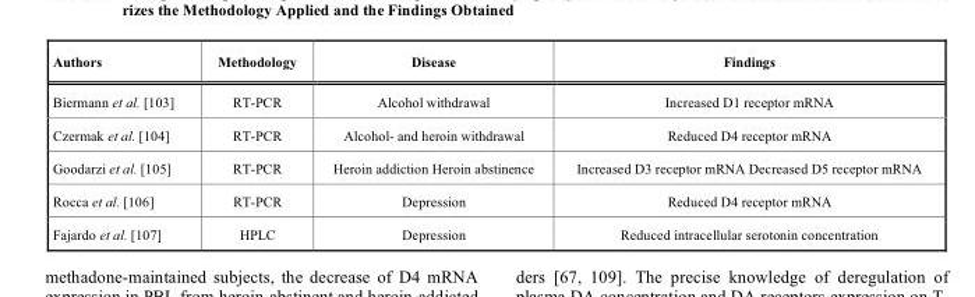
<table><thead><tr><td>Authors</td><td>Methodology</td><td>Disease</td><td>Findings</td></tr></thead><tbody><tr><td>Biermann et al. [103]</td><td>RT-PCR</td><td>Alcohol withdrawal</td><td>Increased D1 receptor mRNA</td></tr><tr><td>Czermak et al. [104]</td><td>RT-PCR</td><td>Alcohol- and heroin withdrawal</td><td>Reduced D4 receptor mRNA</td></tr><tr><td>Goodarzi et al. [105]</td><td>RT-PCR</td><td>Heroin addiction Heroin abstinence</td><td>Increased D3 receptor mRNA Decreased D5 receptor mRNA</td></tr><tr><td>Rocca et al. [106]</td><td>RT-PCR</td><td>Depression</td><td>Reduced D4 receptor mRNA</td></tr><tr><td>Fajardo et al. [107]</td><td>HPLC</td><td>Depression</td><td>Reduced intracellular serotonin concentration</td></tr></tbody></table>